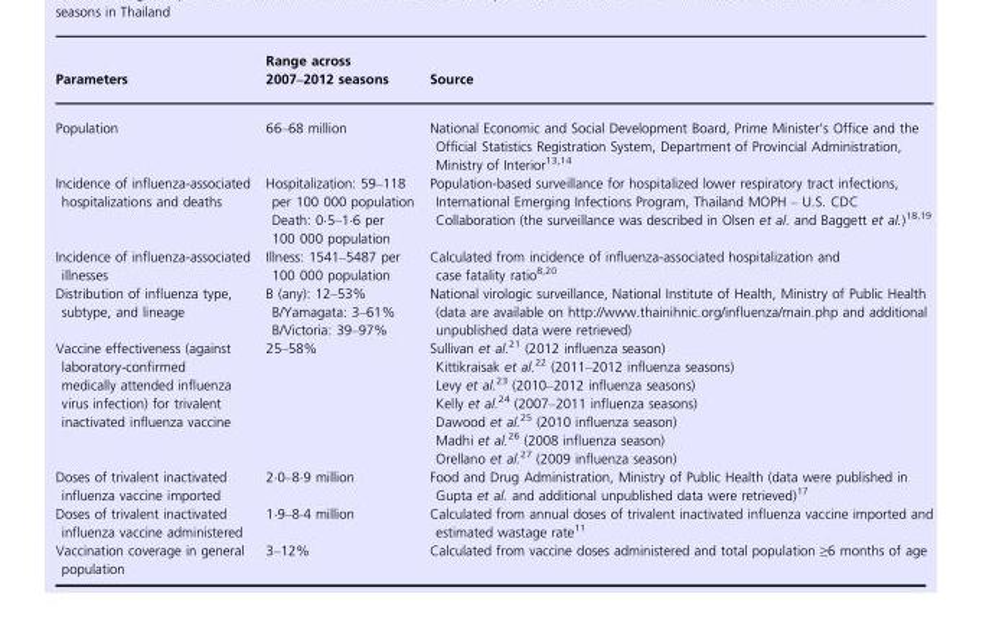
<table><thead><tr><td>Parameters</td><td>Range across 2007–2012 seasons</td><td>Source</td></tr></thead><tbody><tr><td>Population</td><td>66–68 million</td><td>National Economic and Social Development Board, Prime Minister’s Office and the Official Statistics Registration System, Department of Provincial Administration, Ministry of Interior<sup>13</sup>,<sup>14</sup></td></tr><tr><td>Incidence of influenza-associated hospitalizations and deaths</td><td>Hospitalization: 59–118 per 100 000 population Death: 0·5–1·6 per 100 000 population</td><td>Population-based surveillance for hospitalized lower respiratory tract infections, International Emerging Infections Program, Thailand MOPH – U.S. CDC Collaboration (the surveillance was described in Olsen et al. and Baggett et al.)<sup>18</sup>,<sup>19</sup></td></tr><tr><td>Incidence of influenza-associated illnesses</td><td>Illness: 1541–5487 per 100 000 population</td><td>Calculated from incidence of influenza-associated hospitalization and case fatality ratio<sup>8</sup>,<sup>20</sup></td></tr><tr><td>Distribution of influenza type, subtype, and lineage</td><td>B (any): 12–53% B/Yamagata: 3–61% B/Victoria: 39–97%</td><td>National virologic surveillance, National Institute of Health, Ministry of Public Health (data are available on http://www.thainihnic.org/influenza/main.php and additional unpublished data were retrieved)</td></tr><tr><td>Vaccine effectiveness (against laboratory-confirmed medically attended influenza virus infection) for trivalent inactivated influenza vaccine</td><td>25–58%</td><td>Sullivan et al.<sup>21</sup> (2012 influenza season) Kittikraisak et al.<sup>22</sup> (2011–2012 influenza seasons) Levy et al.<sup>23</sup> (2010–2012 influenza seasons) Kelly et al.<sup>24</sup> (2007–2011 influenza seasons) Dawood et al.<sup>25</sup> (2010 influenza season) Madhi et al.<sup>26</sup> (2008 influenza season) Orellano et al.<sup>27</sup> (2009 influenza season)</td></tr><tr><td>Doses of trivalent inactivated influenza vaccine imported</td><td>2·0–8·9 million</td><td>Food and Drug Administration, Ministry of Public Health (data were published in Gupta et al. and additional unpublished data were retrieved)<sup>17</sup></td></tr><tr><td>Doses of trivalent inactivated influenza vaccine administered</td><td>1·9–8·4 million</td><td>Calculated from annual doses of trivalent inactivated influenza vaccine imported and estimated wastage rate<sup>11</sup></td></tr><tr><td>Vaccination coverage in general population</td><td>3–12%</td><td>Calculated from vaccine doses administered and total population ≥6 months of age</td></tr></tbody></table>